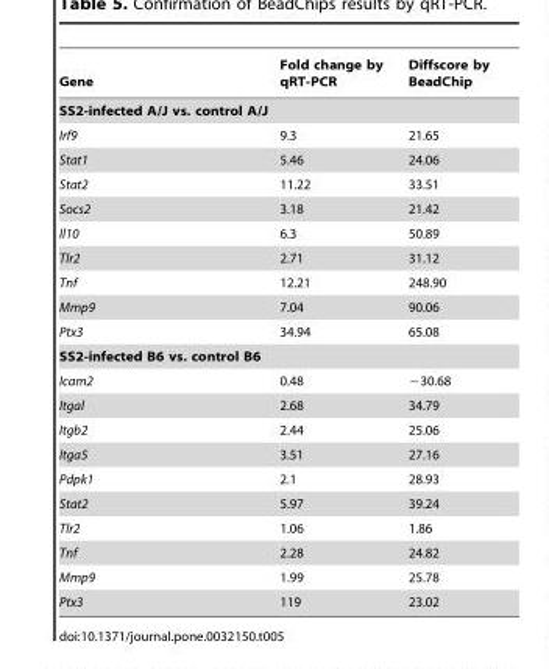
<table><thead><tr><td>Gene</td><td>Fold change by qRT-PCR</td><td>Diffscore by BeadChip</td></tr></thead><tbody><tr><td colspan="3">SS2-infected A/J vs. control A/J</td></tr><tr><td>Irf9</td><td>9.3</td><td>21.65</td></tr><tr><td>Stat1</td><td>5.46</td><td>24.06</td></tr><tr><td>Stat2</td><td>11.22</td><td>33.51</td></tr><tr><td>Socs2</td><td>3.18</td><td>21.42</td></tr><tr><td>Il10</td><td>6.3</td><td>50.89</td></tr><tr><td>Tlr2</td><td>2.71</td><td>31.12</td></tr><tr><td>Tnf</td><td>12.21</td><td>248.90</td></tr><tr><td>Mmp9</td><td>7.04</td><td>90.06</td></tr><tr><td>Ptx3</td><td>34.94</td><td>65.08</td></tr><tr><td colspan="3">SS2-infected B6 vs. control B6</td></tr><tr><td>Icam2</td><td>0.48</td><td>−30.68</td></tr><tr><td>Itgal</td><td>2.68</td><td>34.79</td></tr><tr><td>Itgb2</td><td>2.44</td><td>25.06</td></tr><tr><td>Itga5</td><td>3.51</td><td>27.16</td></tr><tr><td>Pdpk1</td><td>2.1</td><td>28.93</td></tr><tr><td>Stat2</td><td>5.97</td><td>39.24</td></tr><tr><td>Tlr2</td><td>1.06</td><td>1.86</td></tr><tr><td>Tnf</td><td>2.28</td><td>24.82</td></tr><tr><td>Mmp9</td><td>1.99</td><td>25.78</td></tr><tr><td>Ptx3</td><td>119</td><td>23.02</td></tr></tbody></table>